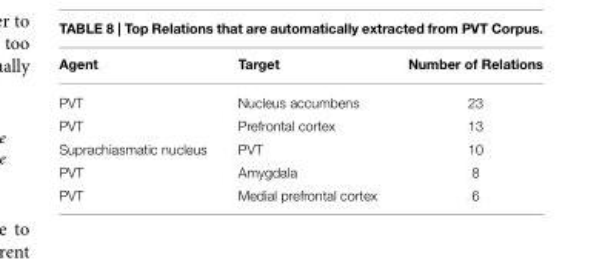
<table><thead><tr><td>Agent</td><td>Target</td><td>Number of Relations</td></tr></thead><tbody><tr><td>PVT</td><td>Nucleus accumbens</td><td>23</td></tr><tr><td>PVT</td><td>Prefrontal cortex</td><td>13</td></tr><tr><td>Suprachiasmatic nucleus</td><td>PVT</td><td>10</td></tr><tr><td>PVT</td><td>Amygdala</td><td>8</td></tr><tr><td>PVT</td><td>Medial prefrontal cortex</td><td>6</td></tr></tbody></table>